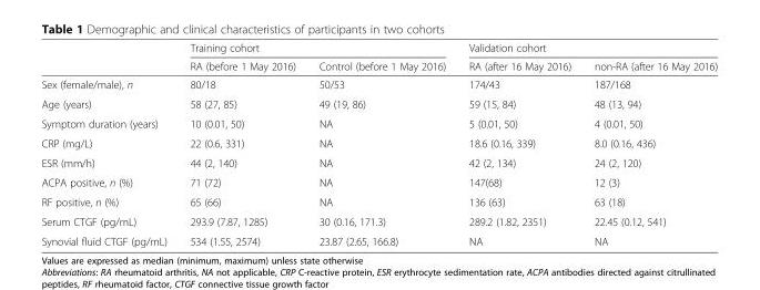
<table><thead><tr><td rowspan="2"></td><td colspan="2">Training cohort</td><td colspan="2">Validation cohort</td></tr><tr><td>RA (before 1 May 2016)</td><td>Control (before 1 May 2016)</td><td>RA (after 16 May 2016)</td><td>non-RA (after 16 May 2016)</td></tr></thead><tbody><tr><td>Sex (female/male), n</td><td>80/18</td><td>50/53</td><td>174/43</td><td>187/168</td></tr><tr><td>Age (years)</td><td>58 (27, 85)</td><td>49 (19, 86)</td><td>59 (15, 84)</td><td>48 (13, 94)</td></tr><tr><td>Symptom duration (years)</td><td>10 (0.01, 50)</td><td>NA</td><td>5 (0.01, 50)</td><td>4 (0.01, 50)</td></tr><tr><td>CRP (mg/L)</td><td>22 (0.6, 331)</td><td>NA</td><td>18.6 (0.16, 339)</td><td>8.0 (0.16, 436)</td></tr><tr><td>ESR (mm/h)</td><td>44 (2, 140)</td><td>NA</td><td>42 (2, 134)</td><td>24 (2, 120)</td></tr><tr><td>ACPA positive, n (%)</td><td>71 (72)</td><td>NA</td><td>147(68)</td><td>12 (3)</td></tr><tr><td>RF positive, n (%)</td><td>65 (66)</td><td>NA</td><td>136 (63)</td><td>63 (18)</td></tr><tr><td>Serum CTGF (pg/mL)</td><td>293.9 (7.87, 1285)</td><td>30 (0.16, 171.3)</td><td>289.2 (1.82, 2351)</td><td>22.45 (0.12, 541)</td></tr><tr><td>Synovial fluid CTGF (pg/mL)</td><td>534 (1.55, 2574)</td><td>23.87 (2.65, 166.8)</td><td>NA</td><td>NA</td></tr></tbody></table>